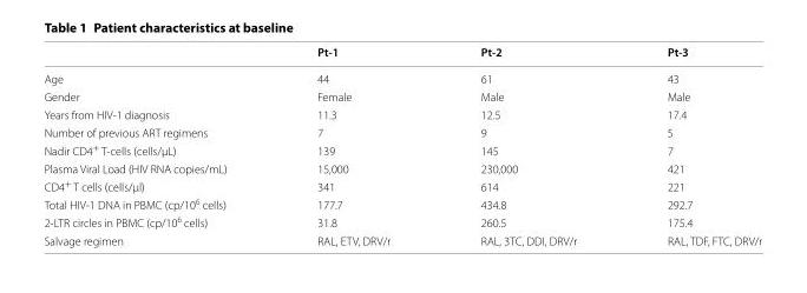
<table><thead><tr><td></td><td>Pt‑1</td><td>Pt‑2</td><td>Pt‑3</td></tr></thead><tbody><tr><td>Age</td><td>44</td><td>61</td><td>43</td></tr><tr><td>Gender</td><td>Female</td><td>Male</td><td>Male</td></tr><tr><td>Years from HIV‑1 diagnosis</td><td>11.3</td><td>12.5</td><td>17.4</td></tr><tr><td>Number of previous ART regimens</td><td>7</td><td>9</td><td>5</td></tr><tr><td>Nadir CD4<sup>+</sup> T‑cells (cells/μL)</td><td>139</td><td>145</td><td>7</td></tr><tr><td>Plasma Viral Load (HIV RNA copies/mL)</td><td>15,000</td><td>230,000</td><td>421</td></tr><tr><td>CD4<sup>+</sup> T cells (cells/μl)</td><td>341</td><td>614</td><td>221</td></tr><tr><td>Total HIV‑1 DNA in PBMC (cp/10<sup>6</sup> cells)</td><td>177.7</td><td>434.8</td><td>292.7</td></tr><tr><td>2‑LTR circles in PBMC (cp/10<sup>6</sup> cells)</td><td>31.8</td><td>260.5</td><td>175.4</td></tr><tr><td>Salvage regimen</td><td>RAL, ETV, DRV/r</td><td>RAL, 3TC, DDI, DRV/r</td><td>RAL, TDF, FTC, DRV/r</td></tr></tbody></table>